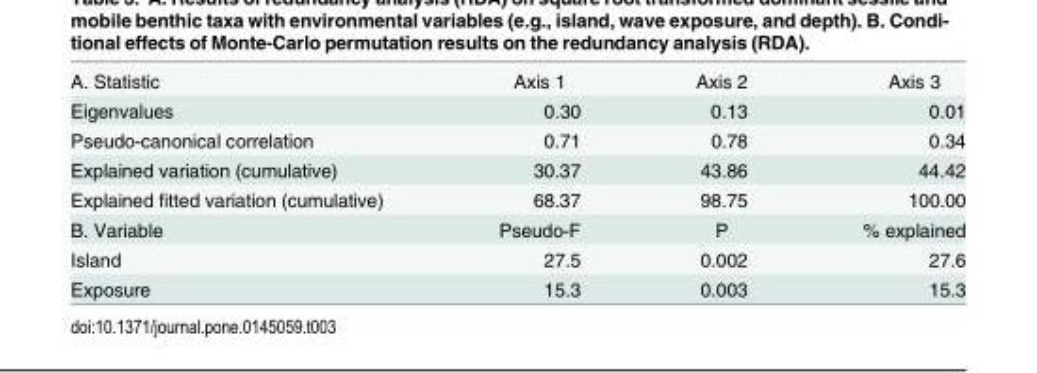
<table><tbody><tr><td>A. Statistic</td><td>Axis 1</td><td>Axis 2</td><td>Axis 3</td></tr><tr><td>Eigenvalues</td><td>0.30</td><td>0.13</td><td>0.01</td></tr><tr><td>Pseudo-canonical correlation</td><td>0.71</td><td>0.78</td><td>0.34</td></tr><tr><td>Explained variation (cumulative)</td><td>30.37</td><td>43.86</td><td>44.42</td></tr><tr><td>Explained fitted variation (cumulative)</td><td>68.37</td><td>98.75</td><td>100.00</td></tr><tr><td>B. Variable</td><td>Pseudo-F</td><td>P</td><td>% explained</td></tr><tr><td>Island</td><td>27.5</td><td>0.002</td><td>27.6</td></tr><tr><td>Exposure</td><td>15.3</td><td>0.003</td><td>15.3</td></tr></tbody></table>